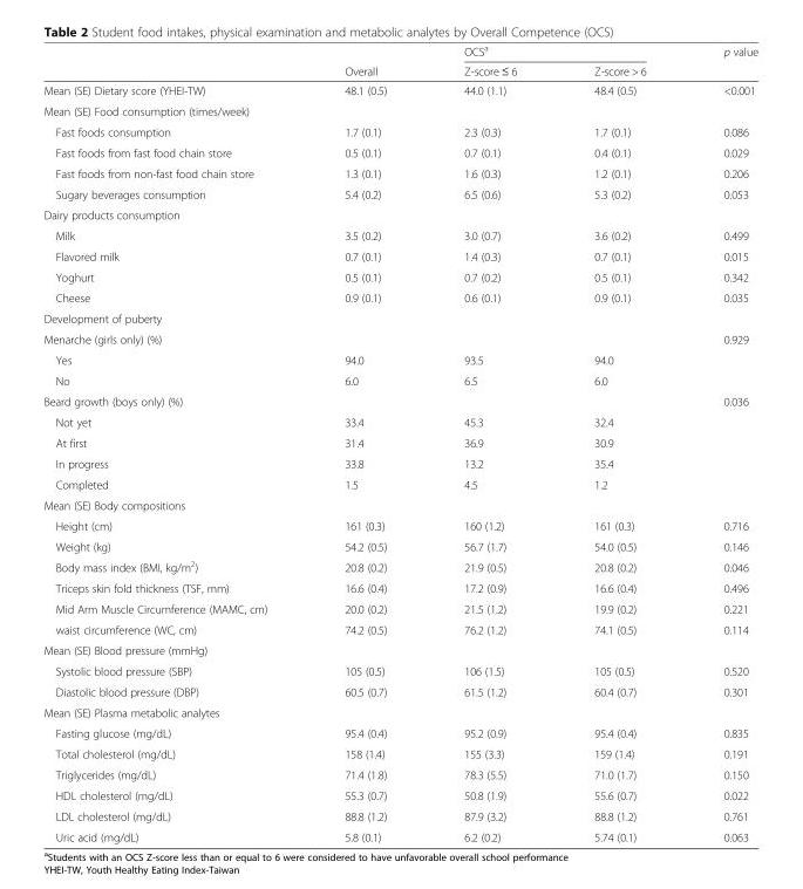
<table><thead><tr><td rowspan="2"></td><td rowspan="2">Overall</td><td colspan="2">OCS<sup>a</sup></td><td rowspan="2">p value</td></tr><tr><td>Z-score ≤ 6</td><td>Z-score &gt; 6</td></tr></thead><tbody><tr><td>Mean (SE) Dietary score (YHEI-TW)</td><td>48.1 (0.5)</td><td>44.0 (1.1)</td><td>48.4 (0.5)</td><td>&lt;0.001</td></tr><tr><td colspan="5">Mean (SE) Food consumption (times/week)</td></tr><tr><td>Fast foods consumption</td><td>1.7 (0.1)</td><td>2.3 (0.3)</td><td>1.7 (0.1)</td><td>0.086</td></tr><tr><td>Fast foods from fast food chain store</td><td>0.5 (0.1)</td><td>0.7 (0.1)</td><td>0.4 (0.1)</td><td>0.029</td></tr><tr><td>Fast foods from non-fast food chain store</td><td>1.3 (0.1)</td><td>1.6 (0.3)</td><td>1.2 (0.1)</td><td>0.206</td></tr><tr><td>Sugary beverages consumption</td><td>5.4 (0.2)</td><td>6.5 (0.6)</td><td>5.3 (0.2)</td><td>0.053</td></tr><tr><td colspan="5">Dairy products consumption</td></tr><tr><td>Milk</td><td>3.5 (0.2)</td><td>3.0 (0.7)</td><td>3.6 (0.2)</td><td>0.499</td></tr><tr><td>Flavored milk</td><td>0.7 (0.1)</td><td>1.4 (0.3)</td><td>0.7 (0.1)</td><td>0.015</td></tr><tr><td>Yoghurt</td><td>0.5 (0.1)</td><td>0.7 (0.2)</td><td>0.5 (0.1)</td><td>0.342</td></tr><tr><td>Cheese</td><td>0.9 (0.1)</td><td>0.6 (0.1)</td><td>0.9 (0.1)</td><td>0.035</td></tr><tr><td colspan="5">Development of puberty</td></tr><tr><td colspan="4">Menarche (girls only) (%)</td><td>0.929</td></tr><tr><td>Yes</td><td>94.0</td><td>93.5</td><td>94.0</td><td></td></tr><tr><td>No</td><td>6.0</td><td>6.5</td><td>6.0</td><td></td></tr><tr><td colspan="4">Beard growth (boys only) (%)</td><td>0.036</td></tr><tr><td>Not yet</td><td>33.4</td><td>45.3</td><td>32.4</td><td></td></tr><tr><td>At first</td><td>31.4</td><td>36.9</td><td>30.9</td><td></td></tr><tr><td>In progress</td><td>33.8</td><td>13.2</td><td>35.4</td><td></td></tr><tr><td>Completed</td><td>1.5</td><td>4.5</td><td>1.2</td><td></td></tr><tr><td colspan="5">Mean (SE) Body compositions</td></tr><tr><td>Height (cm)</td><td>161 (0.3)</td><td>160 (1.2)</td><td>161 (0.3)</td><td>0.716</td></tr><tr><td>Weight (kg)</td><td>54.2 (0.5)</td><td>56.7 (1.7)</td><td>54.0 (0.5)</td><td>0.146</td></tr><tr><td>Body mass index (BMI, kg/m<sup>2</sup>)</td><td>20.8 (0.2)</td><td>21.9 (0.5)</td><td>20.8 (0.2)</td><td>0.046</td></tr><tr><td>Triceps skin fold thickness (TSF, mm)</td><td>16.6 (0.4)</td><td>17.2 (0.9)</td><td>16.6 (0.4)</td><td>0.496</td></tr><tr><td>Mid Arm Muscle Circumference (MAMC, cm)</td><td>20.0 (0.2)</td><td>21.5 (1.2)</td><td>19.9 (0.2)</td><td>0.221</td></tr><tr><td>waist circumference (WC, cm)</td><td>74.2 (0.5)</td><td>76.2 (1.2)</td><td>74.1 (0.5)</td><td>0.114</td></tr><tr><td colspan="5">Mean (SE) Blood pressure (mmHg)</td></tr><tr><td>Systolic blood pressure (SBP)</td><td>105 (0.5)</td><td>106 (1.5)</td><td>105 (0.5)</td><td>0.520</td></tr><tr><td>Diastolic blood pressure (DBP)</td><td>60.5 (0.7)</td><td>61.5 (1.2)</td><td>60.4 (0.7)</td><td>0.301</td></tr><tr><td colspan="5">Mean (SE) Plasma metabolic analytes</td></tr><tr><td>Fasting glucose (mg/dL)</td><td>95.4 (0.4)</td><td>95.2 (0.9)</td><td>95.4 (0.4)</td><td>0.835</td></tr><tr><td>Total cholesterol (mg/dL)</td><td>158 (1.4)</td><td>155 (3.3)</td><td>159 (1.4)</td><td>0.191</td></tr><tr><td>Triglycerides (mg/dL)</td><td>71.4 (1.8)</td><td>78.3 (5.5)</td><td>71.0 (1.7)</td><td>0.150</td></tr><tr><td>HDL cholesterol (mg/dL)</td><td>55.3 (0.7)</td><td>50.8 (1.9)</td><td>55.6 (0.7)</td><td>0.022</td></tr><tr><td>LDL cholesterol (mg/dL)</td><td>88.8 (1.2)</td><td>87.9 (3.2)</td><td>88.8 (1.2)</td><td>0.761</td></tr><tr><td>Uric acid (mg/dL)</td><td>5.8 (0.1)</td><td>6.2 (0.2)</td><td>5.74 (0.1)</td><td>0.063</td></tr></tbody></table>